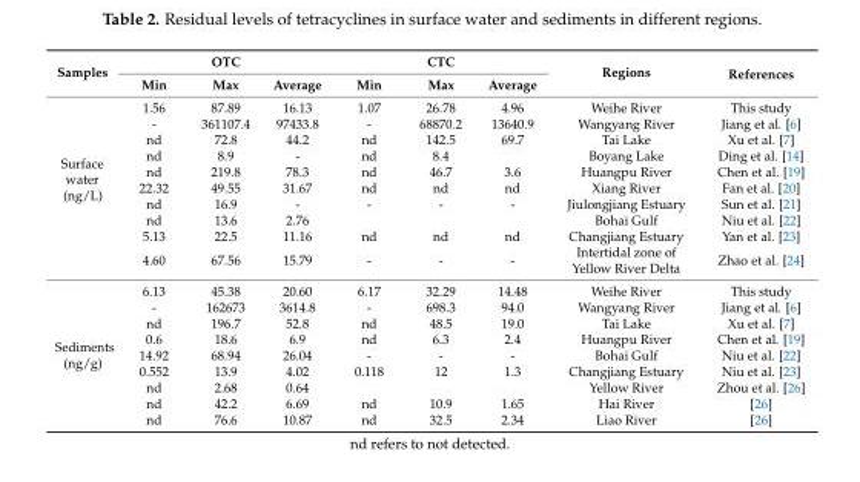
<table><thead><tr><td rowspan="2">Samples</td><td colspan="3">OTC</td><td colspan="3">CTC</td><td rowspan="2">Regions</td><td rowspan="2">References</td></tr><tr><td>Min</td><td>Max</td><td>Average</td><td>Min</td><td>Max</td><td>Average</td></tr></thead><tbody><tr><td rowspan="10">Surface water (ng/L)</td><td>1.56</td><td>87.89</td><td>16.13</td><td>1.07</td><td>26.78</td><td>4.96</td><td>Weihe River</td><td>This study</td></tr><tr><td>-</td><td>361107.4</td><td>97433.8</td><td>-</td><td>68870.2</td><td>13640.9</td><td>Wangyang River</td><td>Jiang et al. [6]</td></tr><tr><td>nd</td><td>72.8</td><td>44.2</td><td>nd</td><td>142.5</td><td>69.7</td><td>Tai Lake</td><td>Xu et al. [7]</td></tr><tr><td>nd</td><td>8.9</td><td>-</td><td>nd</td><td>8.4</td><td></td><td>Boyang Lake</td><td>Ding et al. [14]</td></tr><tr><td>nd</td><td>219.8</td><td>78.3</td><td>nd</td><td>46.7</td><td>3.6</td><td>Huangpu River</td><td>Chen et al. [19]</td></tr><tr><td>22.32</td><td>49.55</td><td>31.67</td><td>nd</td><td>nd</td><td>nd</td><td>Xiang River</td><td>Fan et al. [20]</td></tr><tr><td>nd</td><td>16.9</td><td>-</td><td>-</td><td>-</td><td>-</td><td>Jiulongjiang Estuary</td><td>Sun et al. [21]</td></tr><tr><td>nd</td><td>13.6</td><td>2.76</td><td></td><td></td><td></td><td>Bohai Gulf</td><td>Niu et al. [22]</td></tr><tr><td>5.13</td><td>22.5</td><td>11.16</td><td>nd</td><td>nd</td><td>nd</td><td>Changjiang Estuary</td><td>Yan et al. [23]</td></tr><tr><td>4.60</td><td>67.56</td><td>15.79</td><td>-</td><td>-</td><td>-</td><td>Intertidal zone of Yellow River Delta</td><td>Zhao et al. [24]</td></tr><tr><td rowspan="9">Sediments (ng/g)</td><td>6.13</td><td>45.38</td><td>20.60</td><td>6.17</td><td>32.29</td><td>14.48</td><td>Weihe River</td><td>This study</td></tr><tr><td>-</td><td>162673</td><td>3614.8</td><td>-</td><td>698.3</td><td>94.0</td><td>Wangyang River</td><td>Jiang et al. [6]</td></tr><tr><td>nd</td><td>196.7</td><td>52.8</td><td>nd</td><td>48.5</td><td>19.0</td><td>Tai Lake</td><td>Xu et al. [7]</td></tr><tr><td>0.6</td><td>18.6</td><td>6.9</td><td>nd</td><td>6.3</td><td>2.4</td><td>Huangpu River</td><td>Chen et al. [19]</td></tr><tr><td>14.92</td><td>68.94</td><td>26.04</td><td>-</td><td>-</td><td>-</td><td>Bohai Gulf</td><td>Niu et al. [22]</td></tr><tr><td>0.552</td><td>13.9</td><td>4.02</td><td>0.118</td><td>12</td><td>1.3</td><td>Changjiang Estuary</td><td>Niu et al. [23]</td></tr><tr><td>nd</td><td>2.68</td><td>0.64</td><td></td><td></td><td></td><td>Yellow River</td><td>Zhou et al. [26]</td></tr><tr><td>nd</td><td>42.2</td><td>6.69</td><td>nd</td><td>10.9</td><td>1.65</td><td>Hai River</td><td>[26]</td></tr><tr><td>nd</td><td>76.6</td><td>10.87</td><td>nd</td><td>32.5</td><td>2.34</td><td>Liao River</td><td>[26]</td></tr></tbody></table>